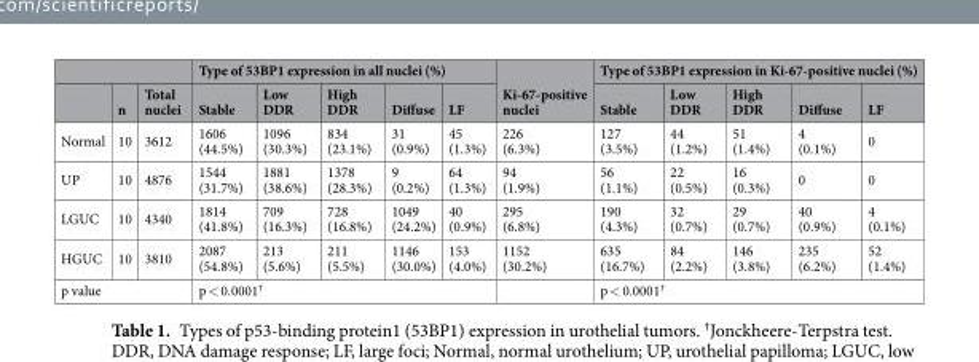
<table><thead><tr><td rowspan="2"></td><td rowspan="2">n</td><td rowspan="2">Total nuclei</td><td colspan="5">Type of 53BP1 expression in all nuclei (%)</td><td rowspan="2">Ki-67-positive nuclei</td><td colspan="5">Type of 53BP1 expression in Ki-67-positive nuclei (%)</td></tr><tr><td>Stable</td><td>Low DDR</td><td>High DDR</td><td>Diffuse</td><td>LF</td><td>Stable</td><td>Low DDR</td><td>High DDR</td><td>Diffuse</td><td>LF</td></tr></thead><tbody><tr><td>Normal</td><td>10</td><td>3612</td><td>1606 (44.5%)</td><td>1096 (30.3%)</td><td>834 (23.1%)</td><td>31 (0.9%)</td><td>45 (1.3%)</td><td>226 (6.3%)</td><td>127 (3.5%)</td><td>44 (1.2%)</td><td>51 (1.4%)</td><td>4 (0.1%)</td><td>0</td></tr><tr><td>UP</td><td>10</td><td>4876</td><td>1544 (31.7%)</td><td>1881 (38.6%)</td><td>1378 (28.3%)</td><td>9 (0.2%)</td><td>64 (1.3%)</td><td>94 (1.9%)</td><td>56 (1.1%)</td><td>22 (0.5%)</td><td>16 (0.3%)</td><td>0</td><td>0</td></tr><tr><td>LGUC</td><td>10</td><td>4340</td><td>1814 (41.8%)</td><td>709 (16.3%)</td><td>728 (16.8%)</td><td>1049 (24.2%)</td><td>40 (0.9%)</td><td>295 (6.8%)</td><td>190 (4.3%)</td><td>32 (0.7%)</td><td>29 (0.7%)</td><td>40 (0.9%)</td><td>4 (0.1%)</td></tr><tr><td>HGUC</td><td>10</td><td>3810</td><td>2087 (54.8%)</td><td>213 (5.6%)</td><td>211 (5.5%)</td><td>1146 (30.0%)</td><td>153 (4.0%)</td><td>1152 (30.2%)</td><td>635 (16.7%)</td><td>84 (2.2%)</td><td>146 (3.8%)</td><td>235 (6.2%)</td><td>52 (1.4%)</td></tr><tr><td colspan="3">p value</td><td colspan="5">p &lt; 0.0001<sup>†</sup></td><td></td><td colspan="5">p &lt; 0.0001<sup>†</sup></td></tr></tbody></table>